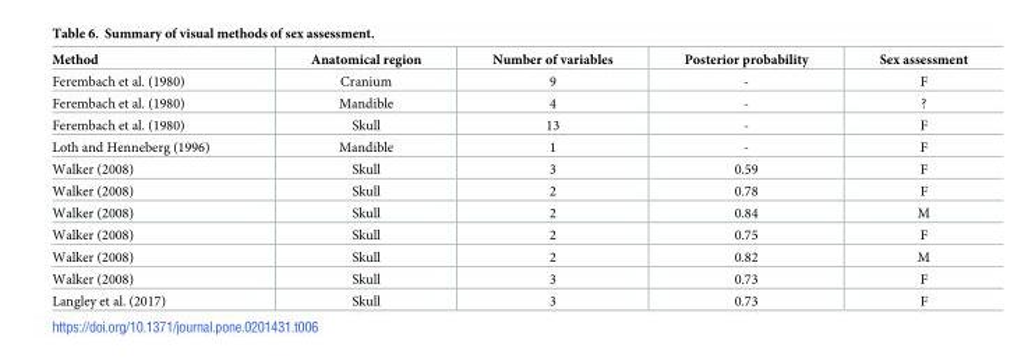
<table><thead><tr><td>Method</td><td>Anatomical region</td><td>Number of variables</td><td>Posterior probability</td><td>Sex assessment</td></tr></thead><tbody><tr><td>Ferembach et al. (1980)</td><td>Cranium</td><td>9</td><td>-</td><td>F</td></tr><tr><td>Ferembach et al. (1980)</td><td>Mandible</td><td>4</td><td>-</td><td>?</td></tr><tr><td>Ferembach et al. (1980)</td><td>Skull</td><td>13</td><td>-</td><td>F</td></tr><tr><td>Loth and Henneberg (1996)</td><td>Mandible</td><td>1</td><td>-</td><td>F</td></tr><tr><td>Walker (2008)</td><td>Skull</td><td>3</td><td>0.59</td><td>F</td></tr><tr><td>Walker (2008)</td><td>Skull</td><td>2</td><td>0.78</td><td>F</td></tr><tr><td>Walker (2008)</td><td>Skull</td><td>2</td><td>0.84</td><td>M</td></tr><tr><td>Walker (2008)</td><td>Skull</td><td>2</td><td>0.75</td><td>F</td></tr><tr><td>Walker (2008)</td><td>Skull</td><td>2</td><td>0.82</td><td>M</td></tr><tr><td>Walker (2008)</td><td>Skull</td><td>3</td><td>0.73</td><td>F</td></tr><tr><td>Langley et al. (2017)</td><td>Skull</td><td>3</td><td>0.73</td><td>F</td></tr></tbody></table>